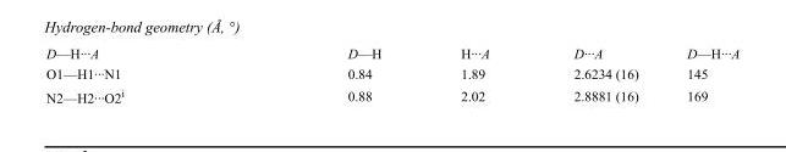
<table><tbody><tr><td>D—H···A</td><td>D—H</td><td>H···A</td><td>D···A</td><td>D—H···A</td></tr><tr><td>O1—H1···N1</td><td>0.84</td><td>1.89</td><td>2.6234 (16)</td><td>145</td></tr><tr><td>N2—H2···O2<sup>i</sup></td><td>0.88</td><td>2.02</td><td>2.8881 (16)</td><td>169</td></tr></tbody></table>